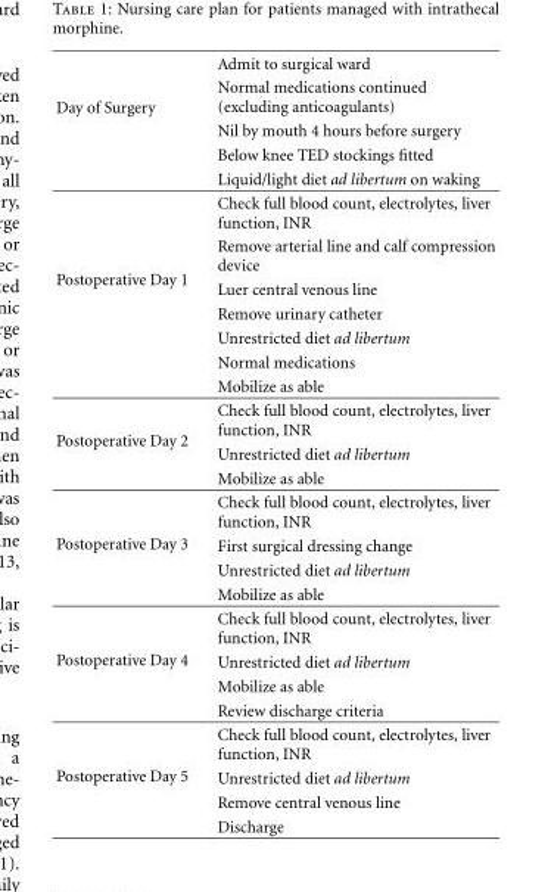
<table><tbody><tr><td rowspan="5">Day of Surgery</td><td>Admit to surgical ward</td></tr><tr><td>Normal medications continued (excluding anticoagulants)</td></tr><tr><td>Nil by mouth 4 hours before surgery</td></tr><tr><td>Below knee TED stockings fitted</td></tr><tr><td>Liquid/light diet ad libertum on waking</td></tr><tr><td rowspan="7">Postoperative Day 1</td><td>Check full blood count, electrolytes, liver function, INR</td></tr><tr><td>Remove arterial line and calf compression device</td></tr><tr><td>Luer central venous line</td></tr><tr><td>Remove urinary catheter</td></tr><tr><td>Unrestricted diet ad libertum</td></tr><tr><td>Normal medications</td></tr><tr><td>Mobilize as able</td></tr><tr><td rowspan="3">Postoperative Day 2</td><td>Check full blood count, electrolytes, liver function, INR</td></tr><tr><td>Unrestricted diet ad libertum</td></tr><tr><td>Mobilize as able</td></tr><tr><td rowspan="4">Postoperative Day 3</td><td>Check full blood count, electrolytes, liver function, INR</td></tr><tr><td>First surgical dressing change</td></tr><tr><td>Unrestricted diet ad libertum</td></tr><tr><td>Mobilize as able</td></tr><tr><td rowspan="4">Postoperative Day 4</td><td>Check full blood count, electrolytes, liver function, INR</td></tr><tr><td>Unrestricted diet ad libertum</td></tr><tr><td>Mobilize as able</td></tr><tr><td>Review discharge criteria</td></tr><tr><td rowspan="4">Postoperative Day 5</td><td>Check full blood count, electrolytes, liver function, INR</td></tr><tr><td>Unrestricted diet ad libertum</td></tr><tr><td>Remove central venous line</td></tr><tr><td>Discharge</td></tr></tbody></table>